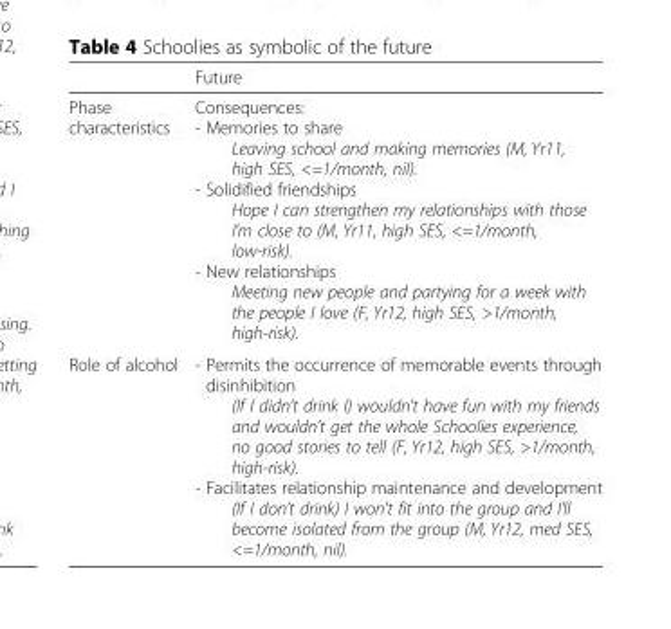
<table><thead><tr><td></td><td>Future</td></tr></thead><tbody><tr><td>Phase characteristics</td><td>Consequences: - Memories to share Leaving school and making memories (M, Yr11, high SES, &lt;=1/month, nil). - Solidified friendships Hope I can strengthen my relationships with those I’m close to (M, Yr11, high SES, &lt;=1/month, low-risk). - New relationships Meeting new people and partying for a week with the people I love (F, Yr12, high SES, &gt;1/month, high-risk).</td></tr><tr><td>Role of alcohol</td><td>- Permits the occurrence of memorable events through disinhibition (If I didn’t drink I) wouldn&#x27;t have fun with my friends and wouldn’t get the whole Schoolies experience, no good stories to tell (F, Yr12, high SES, &gt;1/month, high-risk). - Facilitates relationship maintenance and development (If I don’t drink) I won&#x27;t fit into the group and I&#x27;ll become isolated from the group (M, Yr12, med SES, &lt;=1/month, nil).</td></tr></tbody></table>